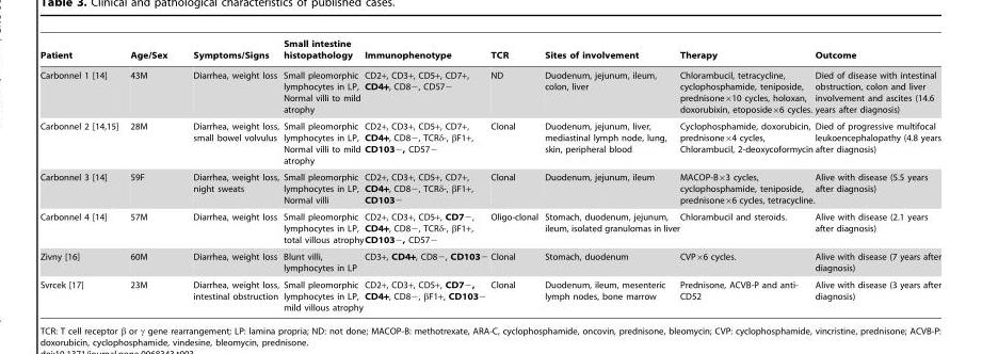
<table><thead><tr><td>Patient</td><td>Age/Sex</td><td>Symptoms/Signs</td><td>Small intestine histopathology</td><td>Immunophenotype</td><td>TCR</td><td>Sites of involvement</td><td>Therapy</td><td>Outcome</td></tr></thead><tbody><tr><td>Carbonnel 1 [14]</td><td>43M</td><td>Diarrhea, weight loss</td><td>Small pleomorphic lymphocytes in LP, Normal villi to mild atrophy</td><td>CD2+, CD3+, CD5+, CD7+, CD4+, CD8−, CD57−</td><td>ND</td><td>Duodenum, jejunum, ileum, colon, liver</td><td>Chlorambucil, tetracycline, cyclophosphamide, teniposide, prednisone×10 cycles, holoxan, doxorubixin, etoposide×6 cycles.</td><td>Died of disease with intestinal obstruction, colon and liver involvement and ascites (14.6 years after diagnosis)</td></tr><tr><td>Carbonnel 2 [14,15]</td><td>28M</td><td>Diarrhea, weight loss, small bowel volvulus</td><td>Small pleomorphic lymphocytes in LP, Normal villi to mild atrophy</td><td>CD2+, CD3+, CD5+, CD7+, CD4+, CD8−, TCRδ-, βF1+, CD103−, CD57−</td><td>Clonal</td><td>Duodenum, jejunum, liver, mediastinal lymph node, lung, skin, peripheral blood</td><td>Cyclophosphamide, doxorubicin, prednisone×4 cycles, Chlorambucil, 2-deoxycoformycin</td><td>Died of progressive multifocal leukoencephalopathy (4.8 years after diagnosis)</td></tr><tr><td>Carbonnel 3 [14]</td><td>59F</td><td>Diarrhea, weight loss, night sweats</td><td>Small pleomorphic lymphocytes in LP, Normal villi</td><td>CD2+, CD3+, CD5+, CD7+, CD4+, CD8−, TCRδ-, βF1+, CD103−</td><td>Clonal</td><td>Duodenum, jejunum, ileum</td><td>MACOP-B×3 cycles, cyclophosphamide, teniposide, prednisone×6 cycles, tetracycline.</td><td>Alive with disease (5.5 years after diagnosis)</td></tr><tr><td>Carbonnel 4 [14]</td><td>57M</td><td>Diarrhea, weight loss</td><td>Small pleomorphic lymphocytes in LP, total villous atrophy</td><td>CD2+, CD3+, CD5+, CD7−, CD4+, CD8−, TCRδ-, βF1+, CD103−, CD57−</td><td>Oligo-clonal</td><td>Stomach, duodenum, jejunum, ileum, isolated granulomas in liver</td><td>Chlorambucil and steroids.</td><td>Alive with disease (2.1 years after diagnosis)</td></tr><tr><td>Zivny [16]</td><td>60M</td><td>Diarrhea, weight loss</td><td>Blunt villi, lymphocytes in LP</td><td>CD3+, CD4+, CD8−, CD103−</td><td>Clonal</td><td>Stomach, duodenum</td><td>CVP×6 cycles.</td><td>Alive with disease (7 years after diagnosis)</td></tr><tr><td>Svrcek [17]</td><td>23M</td><td>Diarrhea, weight loss, intestinal obstruction</td><td>Small pleomorphic lymphocytes in LP, mild villous atrophy</td><td>CD2+, CD3+, CD5+, CD7−, CD4+, CD8−, βF1+, CD103−</td><td>Clonal</td><td>Duodenum, ileum, mesenteric lymph nodes, bone marrow</td><td>Prednisone, ACVB-P and anti- CD52</td><td>Alive with disease (3 years after diagnosis)</td></tr></tbody></table>